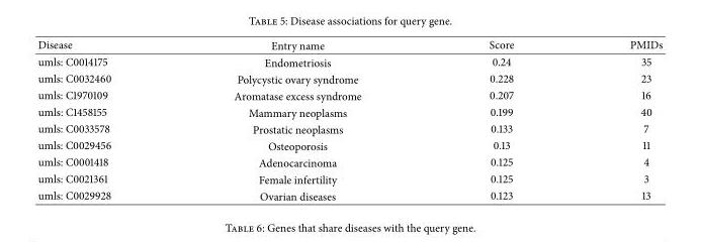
<table><thead><tr><td>Disease</td><td>Entry name</td><td>Score</td><td>PMIDs</td></tr></thead><tbody><tr><td>umls: C0014175</td><td>Endometriosis</td><td>0.24</td><td>35</td></tr><tr><td>umls: C0032460</td><td>Polycystic ovary syndrome</td><td>0.228</td><td>23</td></tr><tr><td>umls: C1970109</td><td>Aromatase excess syndrome</td><td>0.207</td><td>16</td></tr><tr><td>umls: C1458155</td><td>Mammary neoplasms</td><td>0.199</td><td>40</td></tr><tr><td>umls: C0033578</td><td>Prostatic neoplasms</td><td>0.133</td><td>7</td></tr><tr><td>umls: C0029456</td><td>Osteoporosis</td><td>0.13</td><td>11</td></tr><tr><td>umls: C0001418</td><td>Adenocarcinoma</td><td>0.125</td><td>4</td></tr><tr><td>umls: C0021361</td><td>Female infertility</td><td>0.125</td><td>3</td></tr><tr><td>umls: C0029928</td><td>Ovarian diseases</td><td>0.123</td><td>13</td></tr></tbody></table>